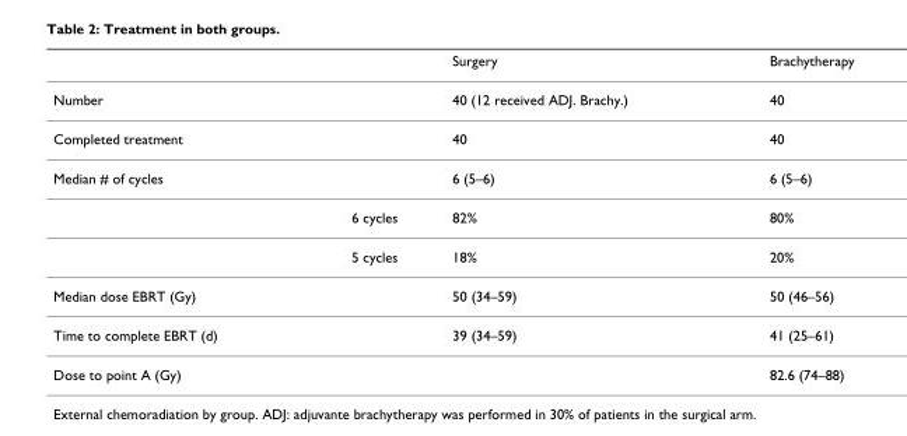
<table><thead><tr><td></td><td></td><td>Surgery</td><td>Brachytherapy</td></tr></thead><tbody><tr><td>Number</td><td></td><td>40 (12 received ADJ. Brachy.)</td><td>40</td></tr><tr><td>Completed treatment</td><td></td><td>40</td><td>40</td></tr><tr><td rowspan="3">Median # of cycles</td><td></td><td>6 (5–6)</td><td>6 (5–6)</td></tr><tr><td>6 cycles</td><td>82%</td><td>80%</td></tr><tr><td>5 cycles</td><td>18%</td><td>20%</td></tr><tr><td>Median dose EBRT (Gy)</td><td></td><td>50 (34–59)</td><td>50 (46–56)</td></tr><tr><td>Time to complete EBRT (d)</td><td></td><td>39 (34–59)</td><td>41 (25–61)</td></tr><tr><td>Dose to point A (Gy)</td><td></td><td></td><td>82.6 (74–88)</td></tr></tbody></table>